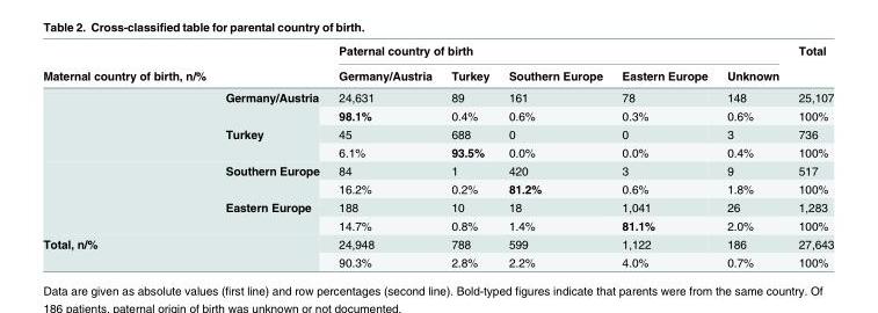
<table><thead><tr><td rowspan="2">Maternal country of birth, n/%</td><td rowspan="2"></td><td colspan="5">Paternal country of birth</td><td rowspan="2">Total</td></tr><tr><td>Germany/Austria</td><td>Turkey</td><td>Southern Europe</td><td>Eastern Europe</td><td>Unknown</td></tr></thead><tbody><tr><td rowspan="2"></td><td rowspan="2">Germany/Austria</td><td>24,631</td><td>89</td><td>161</td><td>78</td><td>148</td><td>25,107</td></tr><tr><td>98.1%</td><td>0.4%</td><td>0.6%</td><td>0.3%</td><td>0.6%</td><td>100%</td></tr><tr><td rowspan="2"></td><td rowspan="2">Turkey</td><td>45</td><td>688</td><td>0</td><td>0</td><td>3</td><td>736</td></tr><tr><td>6.1%</td><td>93.5%</td><td>0.0%</td><td>0.0%</td><td>0.4%</td><td>100%</td></tr><tr><td rowspan="2"></td><td rowspan="2">Southern Europe</td><td>84</td><td>1</td><td>420</td><td>3</td><td>9</td><td>517</td></tr><tr><td>16.2%</td><td>0.2%</td><td>81.2%</td><td>0.6%</td><td>1.8%</td><td>100%</td></tr><tr><td rowspan="2"></td><td rowspan="2">Eastern Europe</td><td>188</td><td>10</td><td>18</td><td>1,041</td><td>26</td><td>1,283</td></tr><tr><td>14.7%</td><td>0.8%</td><td>1.4%</td><td>81.1%</td><td>2.0%</td><td>100%</td></tr><tr><td rowspan="2">Total, n/%</td><td rowspan="2"></td><td>24,948</td><td>788</td><td>599</td><td>1,122</td><td>186</td><td>27,643</td></tr><tr><td>90.3%</td><td>2.8%</td><td>2.2%</td><td>4.0%</td><td>0.7%</td><td>100%</td></tr></tbody></table>